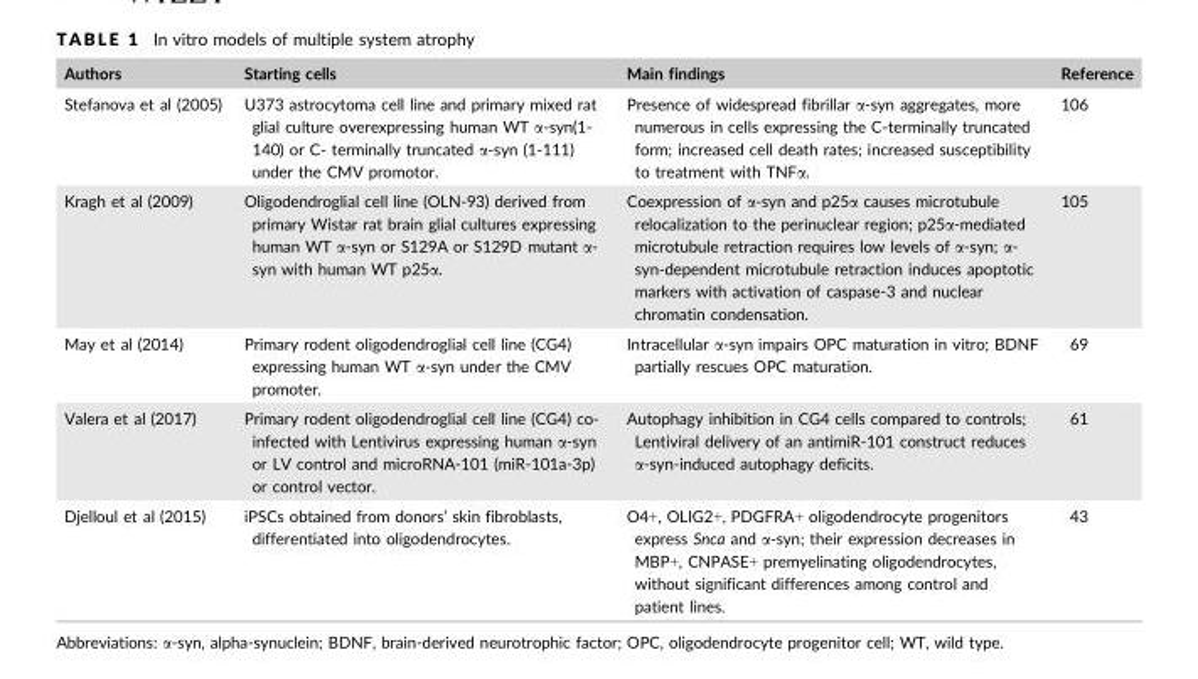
<table><thead><tr><td>Authors</td><td>Starting cells</td><td>Main findings</td><td>Reference</td></tr></thead><tbody><tr><td>Stefanova et al (2005)</td><td>U373 astrocytoma cell line and primary mixed rat glial culture overexpressing human WT α-syn(1- 140) or C- terminally truncated α-syn (1-111) under the CMV promotor.</td><td>Presence of widespread fibrillar α-syn aggregates, more numerous in cells expressing the C-terminally truncated form; increased cell death rates; increased susceptibility to treatment with TNFα.</td><td>106</td></tr><tr><td>Kragh et al (2009)</td><td>Oligodendroglial cell line (OLN-93) derived from primary Wistar rat brain glial cultures expressing human WT α-syn or S129A or S129D mutant α- syn with human WT p25α.</td><td>Coexpression of α-syn and p25α causes microtubule relocalization to the perinuclear region; p25α-mediated microtubule retraction requires low levels of α-syn; α- syn-dependent microtubule retraction induces apoptotic markers with activation of caspase-3 and nuclear chromatin condensation.</td><td>105</td></tr><tr><td>May et al (2014)</td><td>Primary rodent oligodendroglial cell line (CG4) expressing human WT α-syn under the CMV promoter.</td><td>Intracellular α-syn impairs OPC maturation in vitro; BDNF partially rescues OPC maturation.</td><td>69</td></tr><tr><td>Valera et al (2017)</td><td>Primary rodent oligodendroglial cell line (CG4) co- infected with Lentivirus expressing human α-syn or LV control and microRNA-101 (miR-101a-3p) or control vector.</td><td>Autophagy inhibition in CG4 cells compared to controls; Lentiviral delivery of an antimiR-101 construct reduces α-syn-induced autophagy deficits.</td><td>61</td></tr><tr><td>Djelloul et al (2015)</td><td>iPSCs obtained from donors’ skin fibroblasts, differentiated into oligodendrocytes.</td><td>O4+, OLIG2+, PDGFRA+ oligodendrocyte progenitors express Snca and α-syn; their expression decreases in MBP+, CNPASE+ premyelinating oligodendrocytes, without significant differences among control and patient lines.</td><td>43</td></tr></tbody></table>